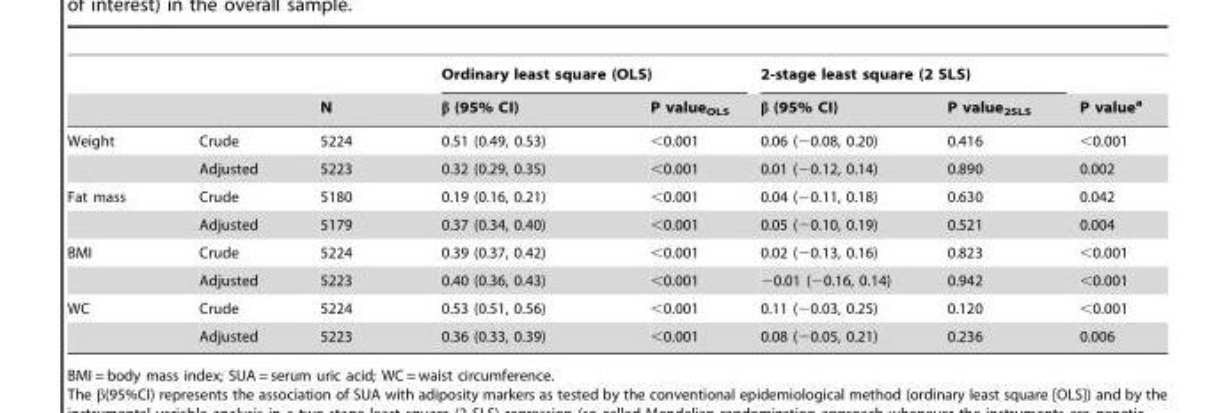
<table><thead><tr><td rowspan="2"></td><td rowspan="2"></td><td rowspan="2">N</td><td colspan="2">Ordinary least square (OLS)</td><td colspan="2">2-stage least square (2 SLS)</td><td rowspan="2">P value<sup>a</sup></td></tr><tr><td>β (95% CI)</td><td>P value<sub>OLS</sub></td><td>β (95% CI)</td><td>P value<sub>2SLS</sub></td></tr></thead><tbody><tr><td rowspan="2">Weight</td><td>Crude</td><td>5224</td><td>0.51 (0.49, 0.53)</td><td>&lt;0.001</td><td>0.06 (−0.08, 0.20)</td><td>0.416</td><td>&lt;0.001</td></tr><tr><td>Adjusted</td><td>5223</td><td>0.32 (0.29, 0.35)</td><td>&lt;0.001</td><td>0.01 (−0.12, 0.14)</td><td>0.890</td><td>0.002</td></tr><tr><td rowspan="2">Fat mass</td><td>Crude</td><td>5180</td><td>0.19 (0.16, 0.21)</td><td>&lt;0.001</td><td>0.04 (−0.11, 0.18)</td><td>0.630</td><td>0.042</td></tr><tr><td>Adjusted</td><td>5179</td><td>0.37 (0.34, 0.40)</td><td>&lt;0.001</td><td>0.05 (−0.10, 0.19)</td><td>0.521</td><td>0.004</td></tr><tr><td rowspan="2">BMI</td><td>Crude</td><td>5224</td><td>0.39 (0.37, 0.42)</td><td>&lt;0.001</td><td>0.02 (−0.13, 0.16)</td><td>0.823</td><td>&lt;0.001</td></tr><tr><td>Adjusted</td><td>5223</td><td>0.40 (0.36, 0.43)</td><td>&lt;0.001</td><td>−0.01 (−0.16, 0.14)</td><td>0.942</td><td>&lt;0.001</td></tr><tr><td rowspan="2">WC</td><td>Crude</td><td>5224</td><td>0.53 (0.51, 0.56)</td><td>&lt;0.001</td><td>0.11 (−0.03, 0.25)</td><td>0.120</td><td>&lt;0.001</td></tr><tr><td>Adjusted</td><td>5223</td><td>0.36 (0.33, 0.39)</td><td>&lt;0.001</td><td>0.08 (−0.05, 0.21)</td><td>0.236</td><td>0.006</td></tr></tbody></table>